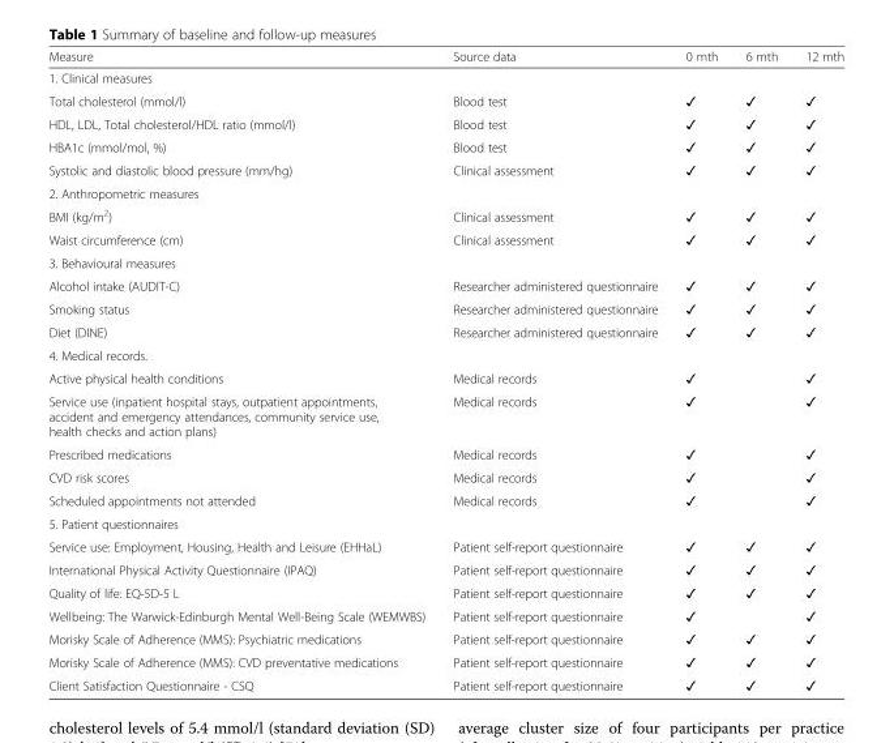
<table><thead><tr><td>Measure</td><td>Source data</td><td>0 mth</td><td>6 mth</td><td>12 mth</td></tr></thead><tbody><tr><td colspan="5">1. Clinical measures</td></tr><tr><td>Total cholesterol (mmol/l)</td><td>Blood test</td><td>✓</td><td>✓</td><td>✓</td></tr><tr><td>HDL, LDL, Total cholesterol/HDL ratio (mmol/l)</td><td>Blood test</td><td>✓</td><td>✓</td><td>✓</td></tr><tr><td>HBA1c (mmol/mol, %)</td><td>Blood test</td><td>✓</td><td>✓</td><td>✓</td></tr><tr><td>Systolic and diastolic blood pressure (mm/hg)</td><td>Clinical assessment</td><td>✓</td><td>✓</td><td>✓</td></tr><tr><td colspan="5">2. Anthropometric measures</td></tr><tr><td>BMI (kg/m<sup>2</sup>)</td><td>Clinical assessment</td><td>✓</td><td>✓</td><td>✓</td></tr><tr><td>Waist circumference (cm)</td><td>Clinical assessment</td><td>✓</td><td>✓</td><td>✓</td></tr><tr><td colspan="5">3. Behavioural measures</td></tr><tr><td>Alcohol intake (AUDIT-C)</td><td>Researcher administered questionnaire</td><td>✓</td><td>✓</td><td>✓</td></tr><tr><td>Smoking status</td><td>Researcher administered questionnaire</td><td>✓</td><td>✓</td><td>✓</td></tr><tr><td>Diet (DINE)</td><td>Researcher administered questionnaire</td><td>✓</td><td>✓</td><td>✓</td></tr><tr><td colspan="5">4. Medical records.</td></tr><tr><td>Active physical health conditions</td><td>Medical records</td><td>✓</td><td></td><td>✓</td></tr><tr><td>Service use (inpatient hospital stays, outpatient appointments, accident and emergency attendances, community service use, health checks and action plans)</td><td>Medical records</td><td>✓</td><td></td><td>✓</td></tr><tr><td>Prescribed medications</td><td>Medical records</td><td>✓</td><td></td><td>✓</td></tr><tr><td>CVD risk scores</td><td>Medical records</td><td>✓</td><td></td><td>✓</td></tr><tr><td>Scheduled appointments not attended</td><td>Medical records</td><td>✓</td><td></td><td>✓</td></tr><tr><td colspan="5">5. Patient questionnaires</td></tr><tr><td>Service use: Employment, Housing, Health and Leisure (EHHaL)</td><td>Patient self-report questionnaire</td><td>✓</td><td>✓</td><td>✓</td></tr><tr><td>International Physical Activity Questionnaire (IPAQ)</td><td>Patient self-report questionnaire</td><td>✓</td><td>✓</td><td>✓</td></tr><tr><td>Quality of life: EQ-5D-5 L</td><td>Patient self-report questionnaire</td><td>✓</td><td>✓</td><td>✓</td></tr><tr><td>Wellbeing: The Warwick-Edinburgh Mental Well-Being Scale (WEMWBS)</td><td>Patient self-report questionnaire</td><td>✓</td><td></td><td>✓</td></tr><tr><td>Morisky Scale of Adherence (MMS): Psychiatric medications</td><td>Patient self-report questionnaire</td><td>✓</td><td>✓</td><td>✓</td></tr><tr><td>Morisky Scale of Adherence (MMS): CVD preventative medications</td><td>Patient self-report questionnaire</td><td>✓</td><td>✓</td><td>✓</td></tr><tr><td>Client Satisfaction Questionnaire - CSQ</td><td>Patient self-report questionnaire</td><td>✓</td><td>✓</td><td>✓</td></tr></tbody></table>